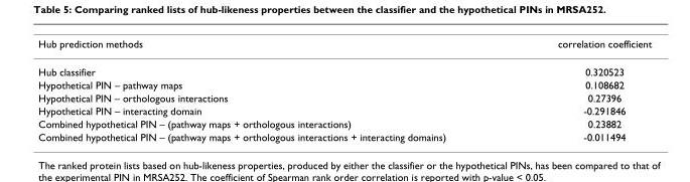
<table><tbody><tr><td>Hub prediction methods</td><td>correlation coefficient</td></tr><tr><td>Hub classifier</td><td>0.320523</td></tr><tr><td>Hypothetical PIN – pathway maps</td><td>0.108682</td></tr><tr><td>Hypothetical PIN – orthologous interactions</td><td>0.27396</td></tr><tr><td>Hypothetical PIN – interacting domain</td><td>-0.291846</td></tr><tr><td>Combined hypothetical PIN – (pathway maps + orthologous interactions)</td><td>0.23882</td></tr><tr><td>Combined hypothetical PIN – (pathway maps + orthologous interactions + interacting domains)</td><td>-0.011494</td></tr></tbody></table>